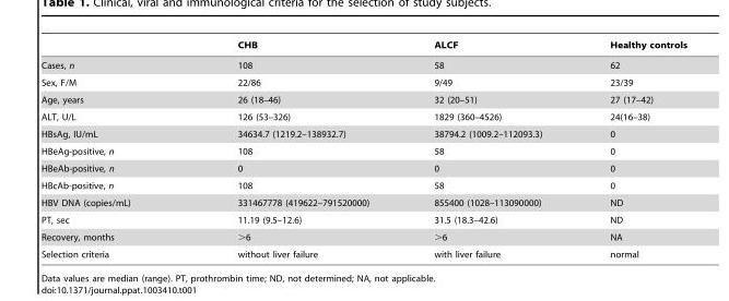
<table><thead><tr><td></td><td>CHB</td><td>ALCF</td><td>Healthy controls</td></tr></thead><tbody><tr><td>Cases, n</td><td>108</td><td>58</td><td>62</td></tr><tr><td>Sex, F/M</td><td>22/86</td><td>9/49</td><td>23/39</td></tr><tr><td>Age, years</td><td>26 (18–46)</td><td>32 (20–51)</td><td>27 (17–42)</td></tr><tr><td>ALT, U/L</td><td>126 (53–326)</td><td>1829 (360–4526)</td><td>24(16–38)</td></tr><tr><td>HBsAg, IU/mL</td><td>34634.7 (1219.2–138932.7)</td><td>38794.2 (1009.2–112093.3)</td><td>0</td></tr><tr><td>HBeAg-positive, n</td><td>108</td><td>58</td><td>0</td></tr><tr><td>HBeAb-positive, n</td><td>0</td><td>0</td><td>0</td></tr><tr><td>HBcAb-positive, n</td><td>108</td><td>58</td><td>0</td></tr><tr><td>HBV DNA (copies/mL)</td><td>331467778 (419622–791520000)</td><td>855400 (1028–113090000)</td><td>ND</td></tr><tr><td>PT, sec</td><td>11.19 (9.5–12.6)</td><td>31.5 (18.3–42.6)</td><td>ND</td></tr><tr><td>Recovery, months</td><td>&gt;6</td><td>&gt;6</td><td>NA</td></tr><tr><td>Selection criteria</td><td>without liver failure</td><td>with liver failure</td><td>normal</td></tr></tbody></table>